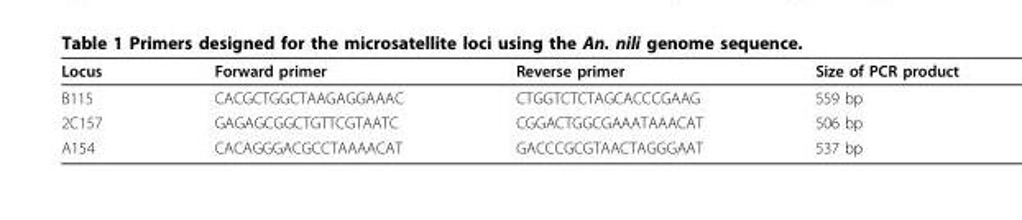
<table><thead><tr><td>Locus</td><td>Forward primer</td><td>Reverse primer</td><td>Size of PCR product</td></tr></thead><tbody><tr><td>B115</td><td>CACGCTGGCTAAGAGGAAAC</td><td>CTGGTCTCTAGCACCCGAAG</td><td>559 bp</td></tr><tr><td>2C157</td><td>GAGAGCGGCTGTTCGTAATC</td><td>CGGACTGGCGAAATAAACAT</td><td>506 bp</td></tr><tr><td>A154</td><td>CACAGGGACGCCTAAAACAT</td><td>GACCCGCGTAACTAGGGAAT</td><td>537 bp</td></tr></tbody></table>